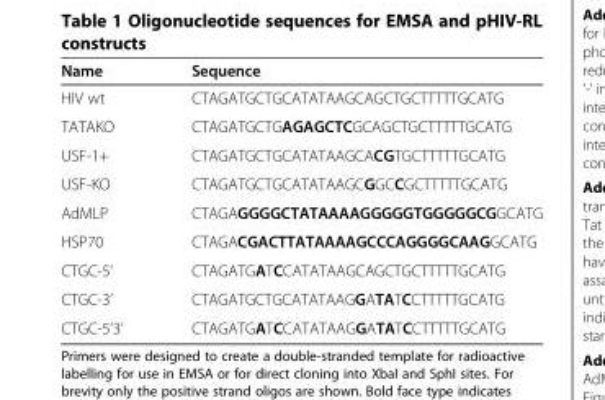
<table><thead><tr><td>Name</td><td>Sequence</td></tr></thead><tbody><tr><td>HIV wt</td><td>CTAGATGCTGCATATAAGCAGCTGCTTTTTGCATG</td></tr><tr><td>TATAKO</td><td>CTAGATGCTGAGAGCTCGCAGCTGCTTTTTGCATG</td></tr><tr><td>USF-1+</td><td>CTAGATGCTGCATATAAGCACGTGCTTTTTGCATG</td></tr><tr><td>USF-KO</td><td>CTAGATGCTGCATATAAGCGGCCGCTTTTTGCATG</td></tr><tr><td>AdMLP</td><td>CTAGAGGGGCTATAAAAGGGGGTGGGGGCGGCATG</td></tr><tr><td>HSP70</td><td>CTAGACGACTTATAAAAGCCCAGGGGCAAGGCATG</td></tr><tr><td>CTGC-5’</td><td>CTAGATGATCCATATAAGCAGCTGCTTTTTGCATG</td></tr><tr><td>CTGC-3’</td><td>CTAGATGCTGCATATAAGGATATCCTTTTTGCATG</td></tr><tr><td>CTGC-5’3’</td><td>CTAGATGATCCATATAAGGATATCCTTTTTGCATG</td></tr></tbody></table>